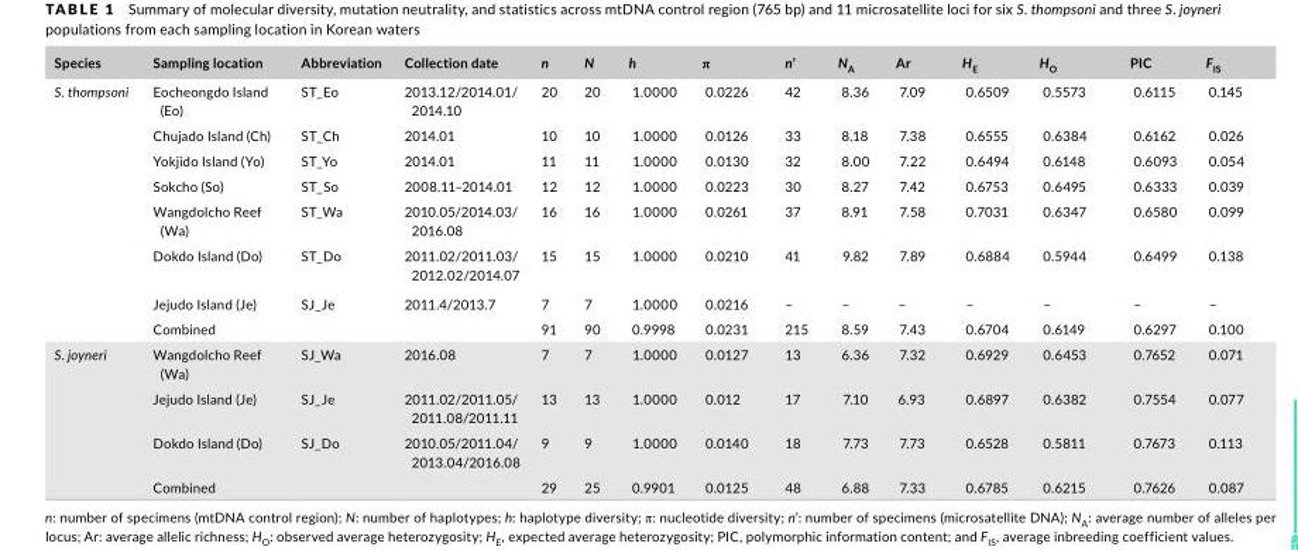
<table><thead><tr><td>Species</td><td>Sampling location</td><td>Abbreviation</td><td>Collection date</td><td>n</td><td>N</td><td>h</td><td>π</td><td>n’</td><td>N<sub>A</sub></td><td>Ar</td><td>H<sub>E</sub></td><td>H<sub>O</sub></td><td>PIC</td><td>F<sub>IS</sub></td></tr></thead><tbody><tr><td rowspan="8">S. thompsoni</td><td>Eocheongdo Island (Eo)</td><td>ST_Eo</td><td>2013.12/2014.01/ 2014.10</td><td>20</td><td>20</td><td>1.0000</td><td>0.0226</td><td>42</td><td>8.36</td><td>7.09</td><td>0.6509</td><td>0.5573</td><td>0.6115</td><td>0.145</td></tr><tr><td>Chujado Island (Ch)</td><td>ST_Ch</td><td>2014.01</td><td>10</td><td>10</td><td>1.0000</td><td>0.0126</td><td>33</td><td>8.18</td><td>7.38</td><td>0.6555</td><td>0.6384</td><td>0.6162</td><td>0.026</td></tr><tr><td>Yokjido Island (Yo)</td><td>ST_Yo</td><td>2014.01</td><td>11</td><td>11</td><td>1.0000</td><td>0.0130</td><td>32</td><td>8.00</td><td>7.22</td><td>0.6494</td><td>0.6148</td><td>0.6093</td><td>0.054</td></tr><tr><td>Sokcho (So)</td><td>ST_So</td><td>2008.11–2014.01</td><td>12</td><td>12</td><td>1.0000</td><td>0.0223</td><td>30</td><td>8.27</td><td>7.42</td><td>0.6753</td><td>0.6495</td><td>0.6333</td><td>0.039</td></tr><tr><td>Wangdolcho Reef (Wa)</td><td>ST_Wa</td><td>2010.05/2014.03/ 2016.08</td><td>16</td><td>16</td><td>1.0000</td><td>0.0261</td><td>37</td><td>8.91</td><td>7.58</td><td>0.7031</td><td>0.6347</td><td>0.6580</td><td>0.099</td></tr><tr><td>Dokdo Island (Do)</td><td>ST_Do</td><td>2011.02/2011.03/ 2012.02/2014.07</td><td>15</td><td>15</td><td>1.0000</td><td>0.0210</td><td>41</td><td>9.82</td><td>7.89</td><td>0.6884</td><td>0.5944</td><td>0.6499</td><td>0.138</td></tr><tr><td>Jejudo Island (Je)</td><td>SJ_Je</td><td>2011.4/2013.7</td><td>7</td><td>7</td><td>1.0000</td><td>0.0216</td><td>–</td><td>–</td><td>–</td><td>–</td><td>–</td><td>–</td><td>–</td></tr><tr><td>Combined</td><td></td><td></td><td>91</td><td>90</td><td>0.9998</td><td>0.0231</td><td>215</td><td>8.59</td><td>7.43</td><td>0.6704</td><td>0.6149</td><td>0.6297</td><td>0.100</td></tr><tr><td rowspan="4">S. joyneri</td><td>Wangdolcho Reef (Wa)</td><td>SJ_Wa</td><td>2016.08</td><td>7</td><td>7</td><td>1.0000</td><td>0.0127</td><td>13</td><td>6.36</td><td>7.32</td><td>0.6929</td><td>0.6453</td><td>0.7652</td><td>0.071</td></tr><tr><td>Jejudo Island (Je)</td><td>SJ_Je</td><td>2011.02/2011.05/ 2011.08/2011.11</td><td>13</td><td>13</td><td>1.0000</td><td>0.012</td><td>17</td><td>7.10</td><td>6.93</td><td>0.6897</td><td>0.6382</td><td>0.7554</td><td>0.077</td></tr><tr><td>Dokdo Island (Do)</td><td>SJ_Do</td><td>2010.05/2011.04/ 2013.04/2016.08</td><td>9</td><td>9</td><td>1.0000</td><td>0.0140</td><td>18</td><td>7.73</td><td>7.73</td><td>0.6528</td><td>0.5811</td><td>0.7673</td><td>0.113</td></tr><tr><td>Combined</td><td></td><td></td><td>29</td><td>25</td><td>0.9901</td><td>0.0125</td><td>48</td><td>6.88</td><td>7.33</td><td>0.6785</td><td>0.6215</td><td>0.7626</td><td>0.087</td></tr></tbody></table>